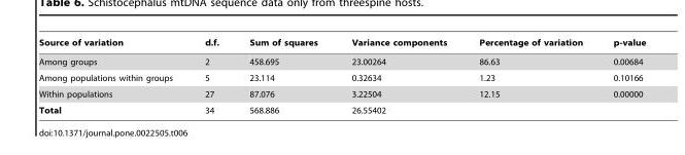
<table><thead><tr><td>Source of variation</td><td>d.f.</td><td>Sum of squares</td><td>Variance components</td><td>Percentage of variation</td><td>p-value</td></tr></thead><tbody><tr><td>Among groups</td><td>2</td><td>458.695</td><td>23.00264</td><td>86.63</td><td>0.00684</td></tr><tr><td>Among populations within groups</td><td>5</td><td>23.114</td><td>0.32634</td><td>1.23</td><td>0.10166</td></tr><tr><td>Within populations</td><td>27</td><td>87.076</td><td>3.22504</td><td>12.15</td><td>0.00000</td></tr><tr><td>Total</td><td>34</td><td>568.886</td><td>26.55402</td><td></td><td></td></tr></tbody></table>